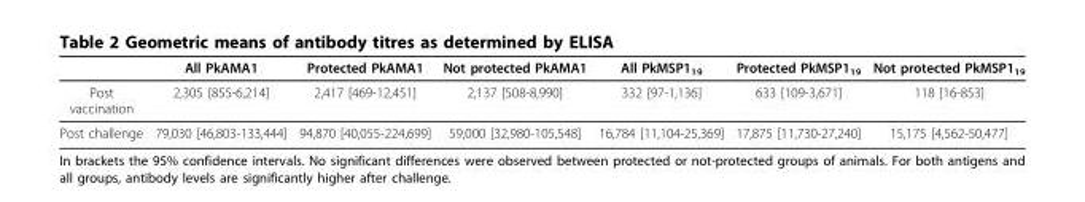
<table><thead><tr><td></td><td>All PkAMA1</td><td>Protected PkAMA1</td><td>Not protected PkAMA1</td><td>All PkMSP1<sub>19</sub></td><td>Protected PkMSP1<sub>19</sub></td><td>Not protected PkMSP1<sub>19</sub></td></tr></thead><tbody><tr><td>Post vaccination</td><td>2,305 [855-6,214]</td><td>2,417 [469-12,451]</td><td>2,137 [508-8,990]</td><td>332 [97-1,136]</td><td>633 [109-3,671]</td><td>118 [16-853]</td></tr><tr><td>Post challenge</td><td>79,030 [46,803-133,444]</td><td>94,870 [40,055-224,699]</td><td>59,000 [32,980-105,548]</td><td>16,784 [11,104-25,369]</td><td>17,875 [11,730-27,240]</td><td>15,175 [4,562-50,477]</td></tr></tbody></table>